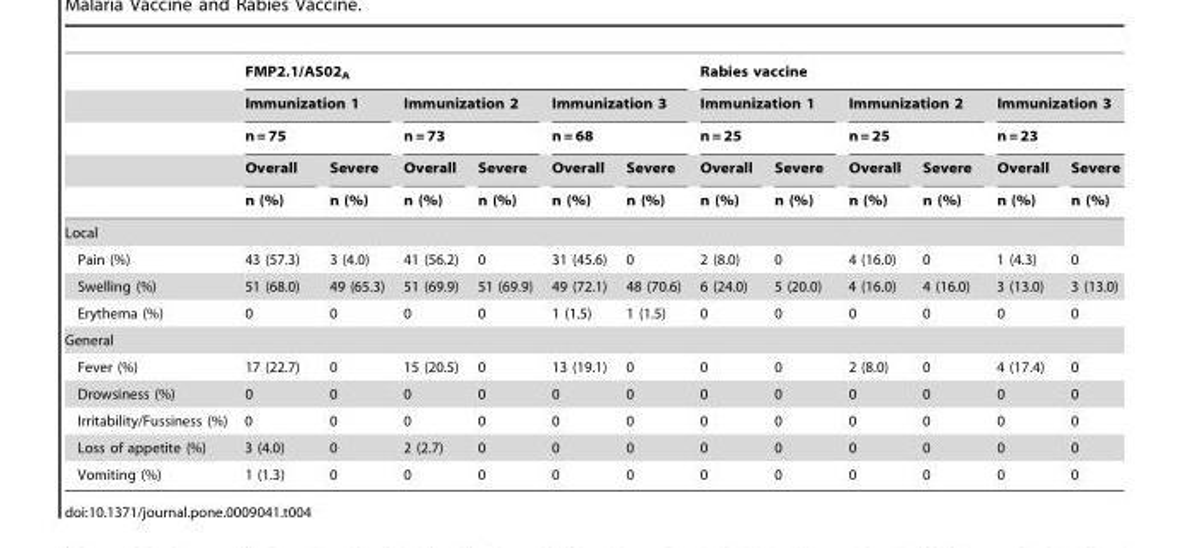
<table><thead><tr><td rowspan="5"></td><td colspan="6">FMP2.1/AS02<sub>A</sub></td><td colspan="6">Rabies vaccine</td></tr><tr><td rowspan="2" colspan="2">Immunization 1 n = 75</td><td rowspan="2" colspan="2">Immunization 2 n = 73</td><td rowspan="2" colspan="2">Immunization 3 n = 68</td><td rowspan="2" colspan="2">Immunization 1 n = 25</td><td rowspan="2" colspan="2">Immunization 2 n = 25</td><td rowspan="2" colspan="2">Immunization 3 n = 23</td></tr><tr></tr><tr><td rowspan="2">Overall n (%)</td><td rowspan="2">Severe n (%)</td><td rowspan="2">Overall n (%)</td><td rowspan="2">Severe n (%)</td><td rowspan="2">Overall n (%)</td><td rowspan="2">Severe n (%)</td><td rowspan="2">Overall n (%)</td><td rowspan="2">Severe n (%)</td><td rowspan="2">Overall n (%)</td><td rowspan="2">Severe n (%)</td><td rowspan="2">Overall n (%)</td><td rowspan="2">Severe n (%)</td></tr><tr></tr></thead><tbody><tr><td colspan="13">Local</td></tr><tr><td>Pain (%)</td><td>43 (57.3)</td><td>3 (4.0)</td><td>41 (56.2)</td><td>0</td><td>31 (45.6)</td><td>0</td><td>2 (8.0)</td><td>0</td><td>4 (16.0)</td><td>0</td><td>1 (4.3)</td><td>0</td></tr><tr><td>Swelling (%)</td><td>51 (68.0)</td><td>49 (65.3)</td><td>51 (69.9)</td><td>51 (69.9)</td><td>49 (72.1)</td><td>48 (70.6)</td><td>6 (24.0)</td><td>5 (20.0)</td><td>4 (16.0)</td><td>4 (16.0)</td><td>3 (13.0)</td><td>3 (13.0)</td></tr><tr><td>Erythema (%)</td><td>0</td><td>0</td><td>0</td><td>0</td><td>1 (1.5)</td><td>1 (1.5)</td><td>0</td><td>0</td><td>0</td><td>0</td><td>0</td><td>0</td></tr><tr><td colspan="13">General</td></tr><tr><td>Fever (%)</td><td>17 (22.7)</td><td>0</td><td>15 (20.5)</td><td>0</td><td>13 (19.1)</td><td>0</td><td>0</td><td>0</td><td>2 (8.0)</td><td>0</td><td>4 (17.4)</td><td>0</td></tr><tr><td>Drowsiness (%)</td><td>0</td><td>0</td><td>0</td><td>0</td><td>0</td><td>0</td><td>0</td><td>0</td><td>0</td><td>0</td><td>0</td><td>0</td></tr><tr><td>Irritability/Fussiness (%)</td><td>0</td><td>0</td><td>0</td><td>0</td><td>0</td><td>0</td><td>0</td><td>0</td><td>0</td><td>0</td><td>0</td><td>0</td></tr><tr><td>Loss of appetite (%)</td><td>3 (4.0)</td><td>0</td><td>2 (2.7)</td><td>0</td><td>0</td><td>0</td><td>0</td><td>0</td><td>0</td><td>0</td><td>0</td><td>0</td></tr><tr><td>Vomiting (%)</td><td>1 (1.3)</td><td>0</td><td>0</td><td>0</td><td>0</td><td>0</td><td>0</td><td>0</td><td>0</td><td>0</td><td>0</td><td>0</td></tr></tbody></table>